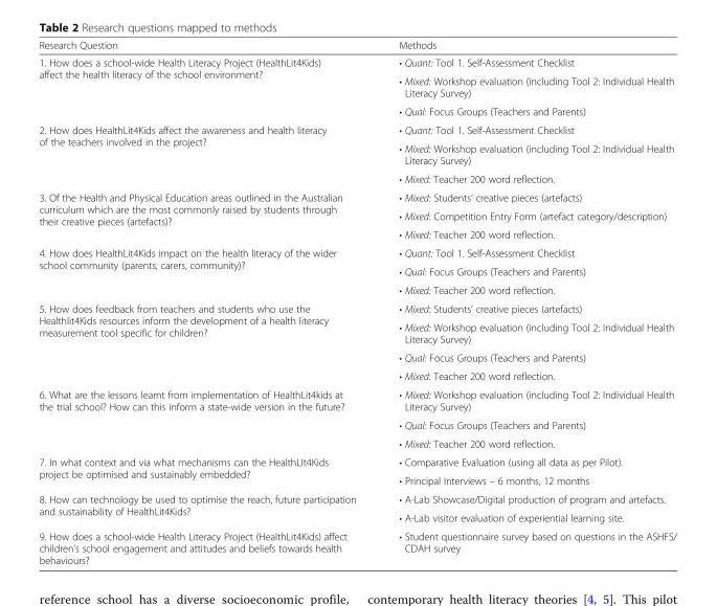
<table><thead><tr><td>Research Question</td><td>Methods</td></tr></thead><tbody><tr><td rowspan="3">1. How does a school-wide Health Literacy Project (HealthLit4Kids) affect the health literacy of the school environment?</td><td>• Quant: Tool 1. Self-Assessment Checklist</td></tr><tr><td>• Mixed: Workshop evaluation (including Tool 2: Individual Health Literacy Survey)</td></tr><tr><td>• Qual: Focus Groups (Teachers and Parents)</td></tr><tr><td rowspan="3">2. How does HealthLit4Kids affect the awareness and health literacy of the teachers involved in the project?</td><td>• Quant: Tool 1. Self-Assessment Checklist</td></tr><tr><td>• Mixed: Workshop evaluation (including Tool 2: Individual Health Literacy Survey)</td></tr><tr><td>• Mixed: Teacher 200 word reflection.</td></tr><tr><td rowspan="3">3. Of the Health and Physical Education areas outlined in the Australian curriculum which are the most commonly raised by students through their creative pieces (artefacts)?</td><td>• Mixed: Students’ creative pieces (artefacts)</td></tr><tr><td>• Mixed: Competition Entry Form (artefact category/description)</td></tr><tr><td>• Mixed: Teacher 200 word reflection.</td></tr><tr><td rowspan="3">4. How does HealthLit4Kids impact on the health literacy of the wider school community (parents, carers, community)?</td><td>• Quant: Tool 1. Self-Assessment Checklist</td></tr><tr><td>• Qual: Focus Groups (Teachers and Parents)</td></tr><tr><td>• Mixed: Teacher 200 word reflection.</td></tr><tr><td rowspan="4">5. How does feedback from teachers and students who use the Healthlit4Kids resources inform the development of a health literacy measurement tool specific for children?</td><td>• Mixed: Students’ creative pieces (artefacts)</td></tr><tr><td>• Mixed: Workshop evaluation (including Tool 2: Individual Health Literacy Survey)</td></tr><tr><td>• Qual: Focus Groups (Teachers and Parents)</td></tr><tr><td>• Mixed: Teacher 200 word reflection.</td></tr><tr><td rowspan="3">6. What are the lessons learnt from implementation of HealthLit4kids at the trial school? How can this inform a state-wide version in the future?</td><td>• Mixed: Workshop evaluation (including Tool 2: Individual Health Literacy Survey)</td></tr><tr><td>• Qual: Focus Groups (Teachers and Parents)</td></tr><tr><td>• Mixed: Teacher 200 word reflection.</td></tr><tr><td rowspan="2">7. In what context and via what mechanisms can the HealthLIt4Kids project be optimised and sustainably embedded?</td><td>• Comparative Evaluation (using all data as per Pilot).</td></tr><tr><td>• Principal Interviews – 6 months, 12 months</td></tr><tr><td rowspan="2">8. How can technology be used to optimise the reach, future participation and sustainability of HealthLit4Kids?</td><td>• A-Lab Showcase/Digital production of program and artefacts.</td></tr><tr><td>• A-Lab visitor evaluation of experiential learning site.</td></tr><tr><td>9. How does a school-wide Health Literacy Project (HealthLit4Kids) affect children’s school engagement and attitudes and beliefs towards health behaviours?</td><td>• Student questionnaire survey based on questions in the ASHFS/ CDAH survey</td></tr></tbody></table>